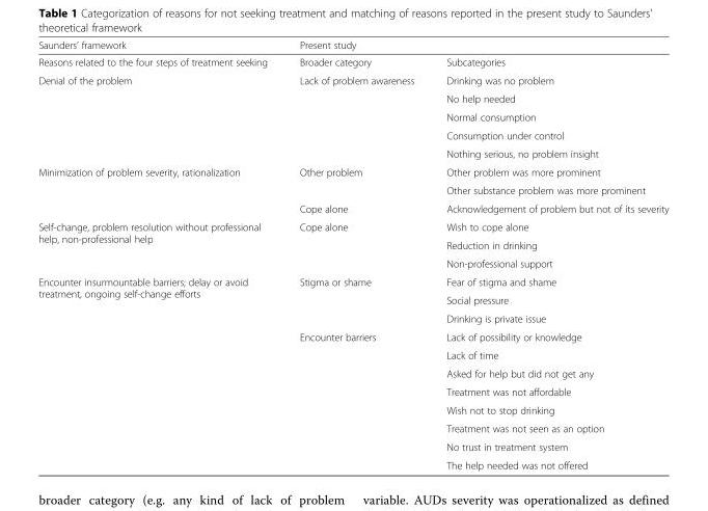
<table><thead><tr><td rowspan="2">Saunders’ framework Reasons related to the four steps of treatment seeking</td><td colspan="2">Present study</td></tr><tr><td>Broader category</td><td>Subcategories</td></tr></thead><tbody><tr><td rowspan="5">Denial of the problem</td><td rowspan="5">Lack of problem awareness</td><td>Drinking was no problem</td></tr><tr><td>No help needed</td></tr><tr><td>Normal consumption</td></tr><tr><td>Consumption under control</td></tr><tr><td>Nothing serious, no problem insight</td></tr><tr><td rowspan="3">Minimization of problem severity, rationalization</td><td rowspan="2">Other problem</td><td>Other problem was more prominent</td></tr><tr><td>Other substance problem was more prominent</td></tr><tr><td>Cope alone</td><td>Acknowledgement of problem but not of its severity</td></tr><tr><td rowspan="3">Self-change, problem resolution without professional help, non-professional help</td><td rowspan="3">Cope alone</td><td>Wish to cope alone</td></tr><tr><td>Reduction in drinking</td></tr><tr><td>Non-professional support</td></tr><tr><td rowspan="11">Encounter insurmountable barriers; delay or avoid treatment, ongoing self-change efforts</td><td rowspan="3">Stigma or shame</td><td>Fear of stigma and shame</td></tr><tr><td>Social pressure</td></tr><tr><td>Drinking is private issue</td></tr><tr><td rowspan="8">Encounter barriers</td><td>Lack of possibility or knowledge</td></tr><tr><td>Lack of time</td></tr><tr><td>Asked for help but did not get any</td></tr><tr><td>Treatment was not affordable</td></tr><tr><td>Wish not to stop drinking</td></tr><tr><td>Treatment was not seen as an option</td></tr><tr><td>No trust in treatment system</td></tr><tr><td>The help needed was not offered</td></tr></tbody></table>